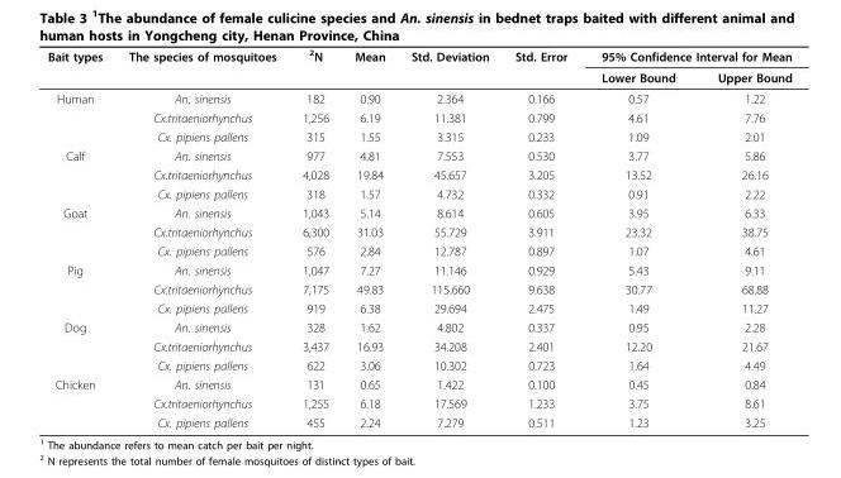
<table><thead><tr><td rowspan="2">Bait types</td><td rowspan="2">The species of mosquitoes</td><td rowspan="2"><sup>2</sup>N</td><td rowspan="2">Mean</td><td rowspan="2">Std. Deviation</td><td rowspan="2">Std. Error</td><td colspan="2">95% Confidence Interval for Mean</td></tr><tr><td>Lower Bound</td><td>Upper Bound</td></tr></thead><tbody><tr><td rowspan="3">Human</td><td>An. sinensis</td><td>182</td><td>0.90</td><td>2.364</td><td>0.166</td><td>0.57</td><td>1.22</td></tr><tr><td>Cx.tritaeniorhynchus</td><td>1,256</td><td>6.19</td><td>11.381</td><td>0.799</td><td>4.61</td><td>7.76</td></tr><tr><td>Cx. pipiens pallens</td><td>315</td><td>1.55</td><td>3.315</td><td>0.233</td><td>1.09</td><td>2.01</td></tr><tr><td rowspan="3">Calf</td><td>An. sinensis</td><td>977</td><td>4.81</td><td>7.553</td><td>0.530</td><td>3.77</td><td>5.86</td></tr><tr><td>Cx.tritaeniorhynchus</td><td>4,028</td><td>19.84</td><td>45.657</td><td>3.205</td><td>13.52</td><td>26.16</td></tr><tr><td>Cx. pipiens pallens</td><td>318</td><td>1.57</td><td>4.732</td><td>0.332</td><td>0.91</td><td>2.22</td></tr><tr><td rowspan="3">Goat</td><td>An. sinensis</td><td>1,043</td><td>5.14</td><td>8.614</td><td>0.605</td><td>3.95</td><td>6.33</td></tr><tr><td>Cx.tritaeniorhynchus</td><td>6,300</td><td>31.03</td><td>55.729</td><td>3.911</td><td>23.32</td><td>38.75</td></tr><tr><td>Cx. pipiens pallens</td><td>576</td><td>2.84</td><td>12.787</td><td>0.897</td><td>1.07</td><td>4.61</td></tr><tr><td rowspan="3">Pig</td><td>An. sinensis</td><td>1,047</td><td>7.27</td><td>11.146</td><td>0.929</td><td>5.43</td><td>9.11</td></tr><tr><td>Cx.tritaeniorhynchus</td><td>7,175</td><td>49.83</td><td>115.660</td><td>9.638</td><td>30.77</td><td>68.88</td></tr><tr><td>Cx. pipiens pallens</td><td>919</td><td>6.38</td><td>29.694</td><td>2.475</td><td>1.49</td><td>11.27</td></tr><tr><td rowspan="3">Dog</td><td>An. sinensis</td><td>328</td><td>1.62</td><td>4.802</td><td>0.337</td><td>0.95</td><td>2.28</td></tr><tr><td>Cx.tritaeniorhynchus</td><td>3,437</td><td>16.93</td><td>34.208</td><td>2.401</td><td>12.20</td><td>21.67</td></tr><tr><td>Cx. pipiens pallens</td><td>622</td><td>3.06</td><td>10.302</td><td>0.723</td><td>1.64</td><td>4.49</td></tr><tr><td rowspan="3">Chicken</td><td>An. sinensis</td><td>131</td><td>0.65</td><td>1.422</td><td>0.100</td><td>0.45</td><td>0.84</td></tr><tr><td>Cx.tritaeniorhynchus</td><td>1,255</td><td>6.18</td><td>17.569</td><td>1.233</td><td>3.75</td><td>8.61</td></tr><tr><td>Cx. pipiens pallens</td><td>455</td><td>2.24</td><td>7.279</td><td>0.511</td><td>1.23</td><td>3.25</td></tr></tbody></table>